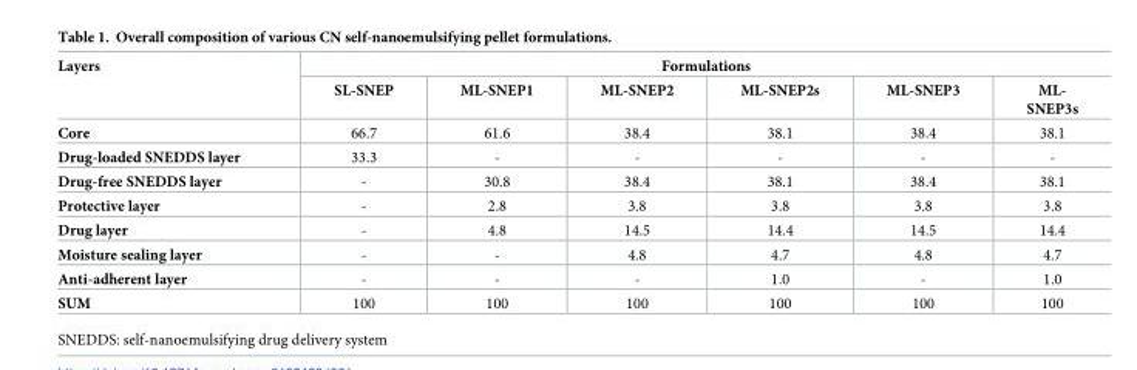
<table><thead><tr><td rowspan="2">Layers</td><td colspan="6">Formulations</td></tr><tr><td>SL-SNEP</td><td>ML-SNEP1</td><td>ML-SNEP2</td><td>ML-SNEP2s</td><td>ML-SNEP3</td><td>ML- SNEP3s</td></tr></thead><tbody><tr><td>Core</td><td>66.7</td><td>61.6</td><td>38.4</td><td>38.1</td><td>38.4</td><td>38.1</td></tr><tr><td>Drug-loaded SNEDDS layer</td><td>33.3</td><td>-</td><td>-</td><td>-</td><td>-</td><td>-</td></tr><tr><td>Drug-free SNEDDS layer</td><td>-</td><td>30.8</td><td>38.4</td><td>38.1</td><td>38.4</td><td>38.1</td></tr><tr><td>Protective layer</td><td>-</td><td>2.8</td><td>3.8</td><td>3.8</td><td>3.8</td><td>3.8</td></tr><tr><td>Drug layer</td><td>-</td><td>4.8</td><td>14.5</td><td>14.4</td><td>14.5</td><td>14.4</td></tr><tr><td>Moisture sealing layer</td><td>-</td><td>-</td><td>4.8</td><td>4.7</td><td>4.8</td><td>4.7</td></tr><tr><td>Anti-adherent layer</td><td>-</td><td>-</td><td>-</td><td>1.0</td><td>-</td><td>1.0</td></tr><tr><td>SUM</td><td>100</td><td>100</td><td>100</td><td>100</td><td>100</td><td>100</td></tr></tbody></table>